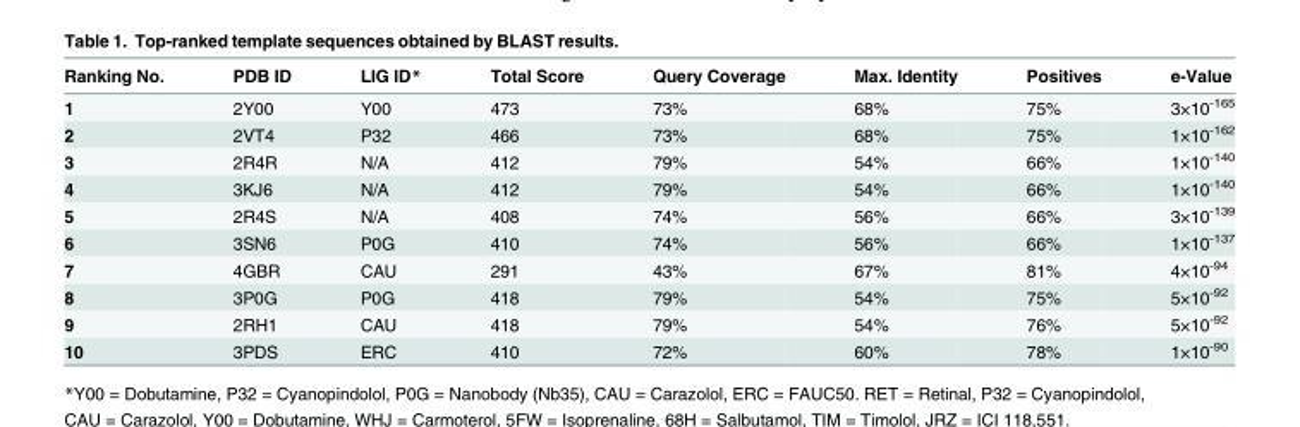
<table><thead><tr><td>Ranking No.</td><td>PDB ID</td><td>LIG ID*</td><td>Total Score</td><td>Query Coverage</td><td>Max. Identity</td><td>Positives</td><td>e-Value</td></tr></thead><tbody><tr><td>1</td><td>2Y00</td><td>Y00</td><td>473</td><td>73%</td><td>68%</td><td>75%</td><td>3×10<sup>-165</sup></td></tr><tr><td>2</td><td>2VT4</td><td>P32</td><td>466</td><td>73%</td><td>68%</td><td>75%</td><td>1×10<sup>-162</sup></td></tr><tr><td>3</td><td>2R4R</td><td>N/A</td><td>412</td><td>79%</td><td>54%</td><td>66%</td><td>1×10<sup>-140</sup></td></tr><tr><td>4</td><td>3KJ6</td><td>N/A</td><td>412</td><td>79%</td><td>54%</td><td>66%</td><td>1×10<sup>-140</sup></td></tr><tr><td>5</td><td>2R4S</td><td>N/A</td><td>408</td><td>74%</td><td>56%</td><td>66%</td><td>3×10<sup>-139</sup></td></tr><tr><td>6</td><td>3SN6</td><td>P0G</td><td>410</td><td>74%</td><td>56%</td><td>66%</td><td>1×10<sup>-137</sup></td></tr><tr><td>7</td><td>4GBR</td><td>CAU</td><td>291</td><td>43%</td><td>67%</td><td>81%</td><td>4×10<sup>-94</sup></td></tr><tr><td>8</td><td>3P0G</td><td>P0G</td><td>418</td><td>79%</td><td>54%</td><td>75%</td><td>5×10<sup>-92</sup></td></tr><tr><td>9</td><td>2RH1</td><td>CAU</td><td>418</td><td>79%</td><td>54%</td><td>76%</td><td>5×10<sup>-92</sup></td></tr><tr><td>10</td><td>3PDS</td><td>ERC</td><td>410</td><td>72%</td><td>60%</td><td>78%</td><td>1×10<sup>-90</sup></td></tr></tbody></table>